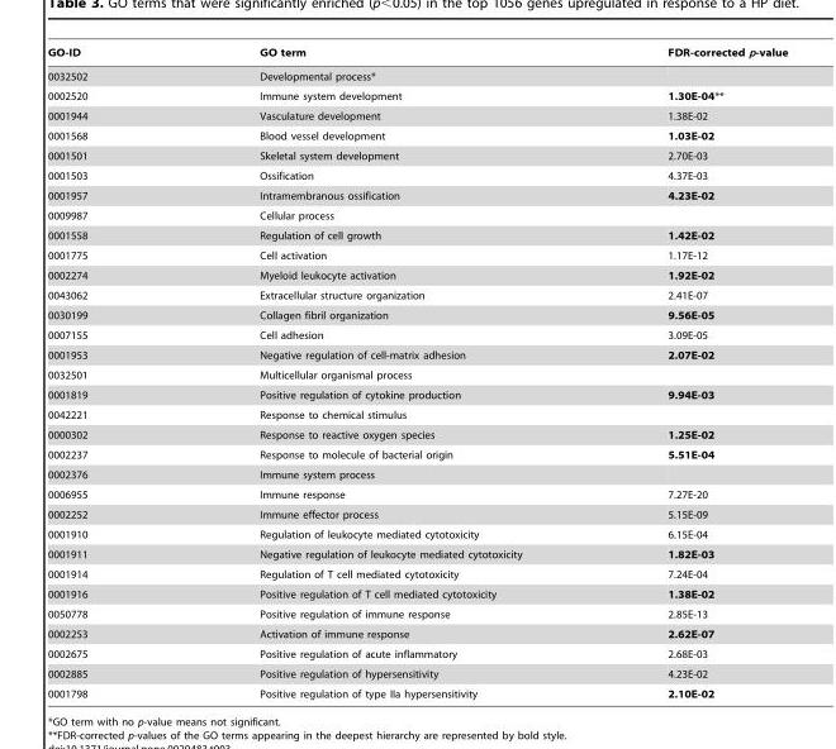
<table><thead><tr><td>GO-ID</td><td>GO term</td><td>FDR-corrected p-value</td></tr></thead><tbody><tr><td>0032502</td><td>Developmental process*</td><td></td></tr><tr><td>0002520</td><td>Immune system development</td><td>1.30E-04**</td></tr><tr><td>0001944</td><td>Vasculature development</td><td>1.38E-02</td></tr><tr><td>0001568</td><td>Blood vessel development</td><td>1.03E-02</td></tr><tr><td>0001501</td><td>Skeletal system development</td><td>2.70E-03</td></tr><tr><td>0001503</td><td>Ossification</td><td>4.37E-03</td></tr><tr><td>0001957</td><td>Intramembranous ossification</td><td>4.23E-02</td></tr><tr><td>0009987</td><td>Cellular process</td><td></td></tr><tr><td>0001558</td><td>Regulation of cell growth</td><td>1.42E-02</td></tr><tr><td>0001775</td><td>Cell activation</td><td>1.17E-12</td></tr><tr><td>0002274</td><td>Myeloid leukocyte activation</td><td>1.92E-02</td></tr><tr><td>0043062</td><td>Extracellular structure organization</td><td>2.41E-07</td></tr><tr><td>0030199</td><td>Collagen fibril organization</td><td>9.56E-05</td></tr><tr><td>0007155</td><td>Cell adhesion</td><td>3.09E-05</td></tr><tr><td>0001953</td><td>Negative regulation of cell-matrix adhesion</td><td>2.07E-02</td></tr><tr><td>0032501</td><td>Multicellular organismal process</td><td></td></tr><tr><td>0001819</td><td>Positive regulation of cytokine production</td><td>9.94E-03</td></tr><tr><td>0042221</td><td>Response to chemical stimulus</td><td></td></tr><tr><td>0000302</td><td>Response to reactive oxygen species</td><td>1.25E-02</td></tr><tr><td>0002237</td><td>Response to molecule of bacterial origin</td><td>5.51E-04</td></tr><tr><td>0002376</td><td>Immune system process</td><td></td></tr><tr><td>0006955</td><td>Immune response</td><td>7.27E-20</td></tr><tr><td>0002252</td><td>Immune effector process</td><td>5.15E-09</td></tr><tr><td>0001910</td><td>Regulation of leukocyte mediated cytotoxicity</td><td>6.15E-04</td></tr><tr><td>0001911</td><td>Negative regulation of leukocyte mediated cytotoxicity</td><td>1.82E-03</td></tr><tr><td>0001914</td><td>Regulation of T cell mediated cytotoxicity</td><td>7.24E-04</td></tr><tr><td>0001916</td><td>Positive regulation of T cell mediated cytotoxicity</td><td>1.38E-02</td></tr><tr><td>0050778</td><td>Positive regulation of immune response</td><td>2.85E-13</td></tr><tr><td>0002253</td><td>Activation of immune response</td><td>2.62E-07</td></tr><tr><td>0002675</td><td>Positive regulation of acute inflammatory</td><td>2.68E-03</td></tr><tr><td>0002885</td><td>Positive regulation of hypersensitivity</td><td>4.23E-02</td></tr><tr><td>0001798</td><td>Positive regulation of type IIa hypersensitivity</td><td>2.10E-02</td></tr></tbody></table>